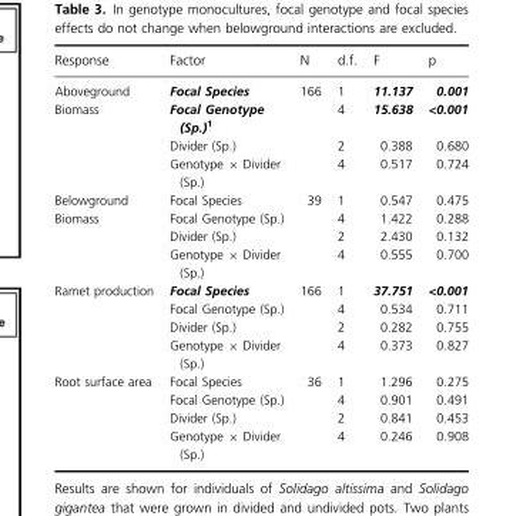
<table><thead><tr><td>Response</td><td>Factor</td><td>N</td><td>d.f.</td><td>F</td><td>p</td></tr></thead><tbody><tr><td>Aboveground</td><td>Focal Species</td><td>166</td><td>1</td><td>11.137</td><td>0.001</td></tr><tr><td rowspan="3">Biomass</td><td>Focal Genotype (Sp.)<sup>1</sup></td><td></td><td>4</td><td>15.638</td><td>&lt;0.001</td></tr><tr><td>Divider (Sp.)</td><td></td><td>2</td><td>0.388</td><td>0.680</td></tr><tr><td>Genotype × Divider (Sp.)</td><td></td><td>4</td><td>0.517</td><td>0.724</td></tr><tr><td>Belowground</td><td>Focal Species</td><td>39</td><td>1</td><td>0.547</td><td>0.475</td></tr><tr><td rowspan="3">Biomass</td><td>Focal Genotype (Sp.)</td><td></td><td>4</td><td>1.422</td><td>0.288</td></tr><tr><td>Divider (Sp.)</td><td></td><td>2</td><td>2.430</td><td>0.132</td></tr><tr><td>Genotype × Divider (Sp.)</td><td></td><td>4</td><td>0.555</td><td>0.700</td></tr><tr><td rowspan="4">Ramet production</td><td>Focal Species</td><td>166</td><td>1</td><td>37.751</td><td>&lt;0.001</td></tr><tr><td>Focal Genotype (Sp.)</td><td></td><td>4</td><td>0.534</td><td>0.711</td></tr><tr><td>Divider (Sp.)</td><td></td><td>2</td><td>0.282</td><td>0.755</td></tr><tr><td>Genotype × Divider (Sp.)</td><td></td><td>4</td><td>0.373</td><td>0.827</td></tr><tr><td rowspan="4">Root surface area</td><td>Focal Species</td><td>36</td><td>1</td><td>1.296</td><td>0.275</td></tr><tr><td>Focal Genotype (Sp.)</td><td></td><td>4</td><td>0.901</td><td>0.491</td></tr><tr><td>Divider (Sp.)</td><td></td><td>2</td><td>0.841</td><td>0.453</td></tr><tr><td>Genotype × Divider (Sp.)</td><td></td><td>4</td><td>0.246</td><td>0.908</td></tr></tbody></table>